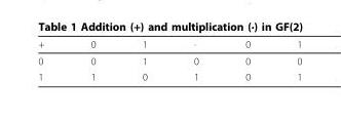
<table><thead><tr><td>+</td><td>0</td><td>1</td><td>·</td><td>0</td><td>1</td></tr></thead><tbody><tr><td>0</td><td>0</td><td>1</td><td>0</td><td>0</td><td>0</td></tr><tr><td>1</td><td>1</td><td>0</td><td>1</td><td>0</td><td>1</td></tr></tbody></table>